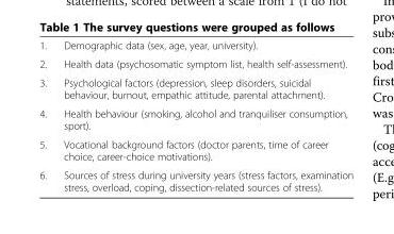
<table><tbody><tr><td>1.</td><td>Demographic data (sex, age, year, university).</td></tr><tr><td>2.</td><td>Health data (psychosomatic symptom list, health self-assessment).</td></tr><tr><td>3.</td><td>Psychological factors (depression, sleep disorders, suicidal behaviour, burnout, empathic attitude, parental attachment).</td></tr><tr><td>4.</td><td>Health behaviour (smoking, alcohol and tranquiliser consumption, sport).</td></tr><tr><td>5.</td><td>Vocational background factors (doctor parents, time of career choice, career-choice motivations).</td></tr><tr><td>6.</td><td>Sources of stress during university years (stress factors, examination stress, overload, coping, dissection-related sources of stress).</td></tr></tbody></table>